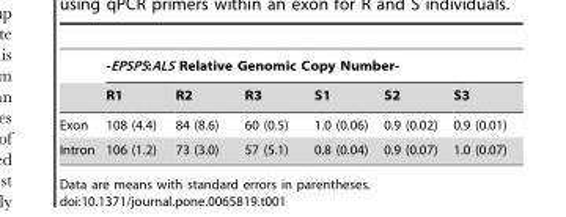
<table><thead><tr><td rowspan="2"></td><td colspan="6">-EPSPS:ALS Relative Genomic Copy Number-</td></tr><tr><td>R1</td><td>R2</td><td>R3</td><td>S1</td><td>S2</td><td>S3</td></tr></thead><tbody><tr><td>Exon</td><td>108 (4.4)</td><td>84 (8.6)</td><td>60 (0.5)</td><td>1.0 (0.06)</td><td>0.9 (0.02)</td><td>0.9 (0.01)</td></tr><tr><td>Intron</td><td>106 (1.2)</td><td>73 (3.0)</td><td>57 (5.1)</td><td>0.8 (0.04)</td><td>0.9 (0.07)</td><td>1.0 (0.07)</td></tr></tbody></table>